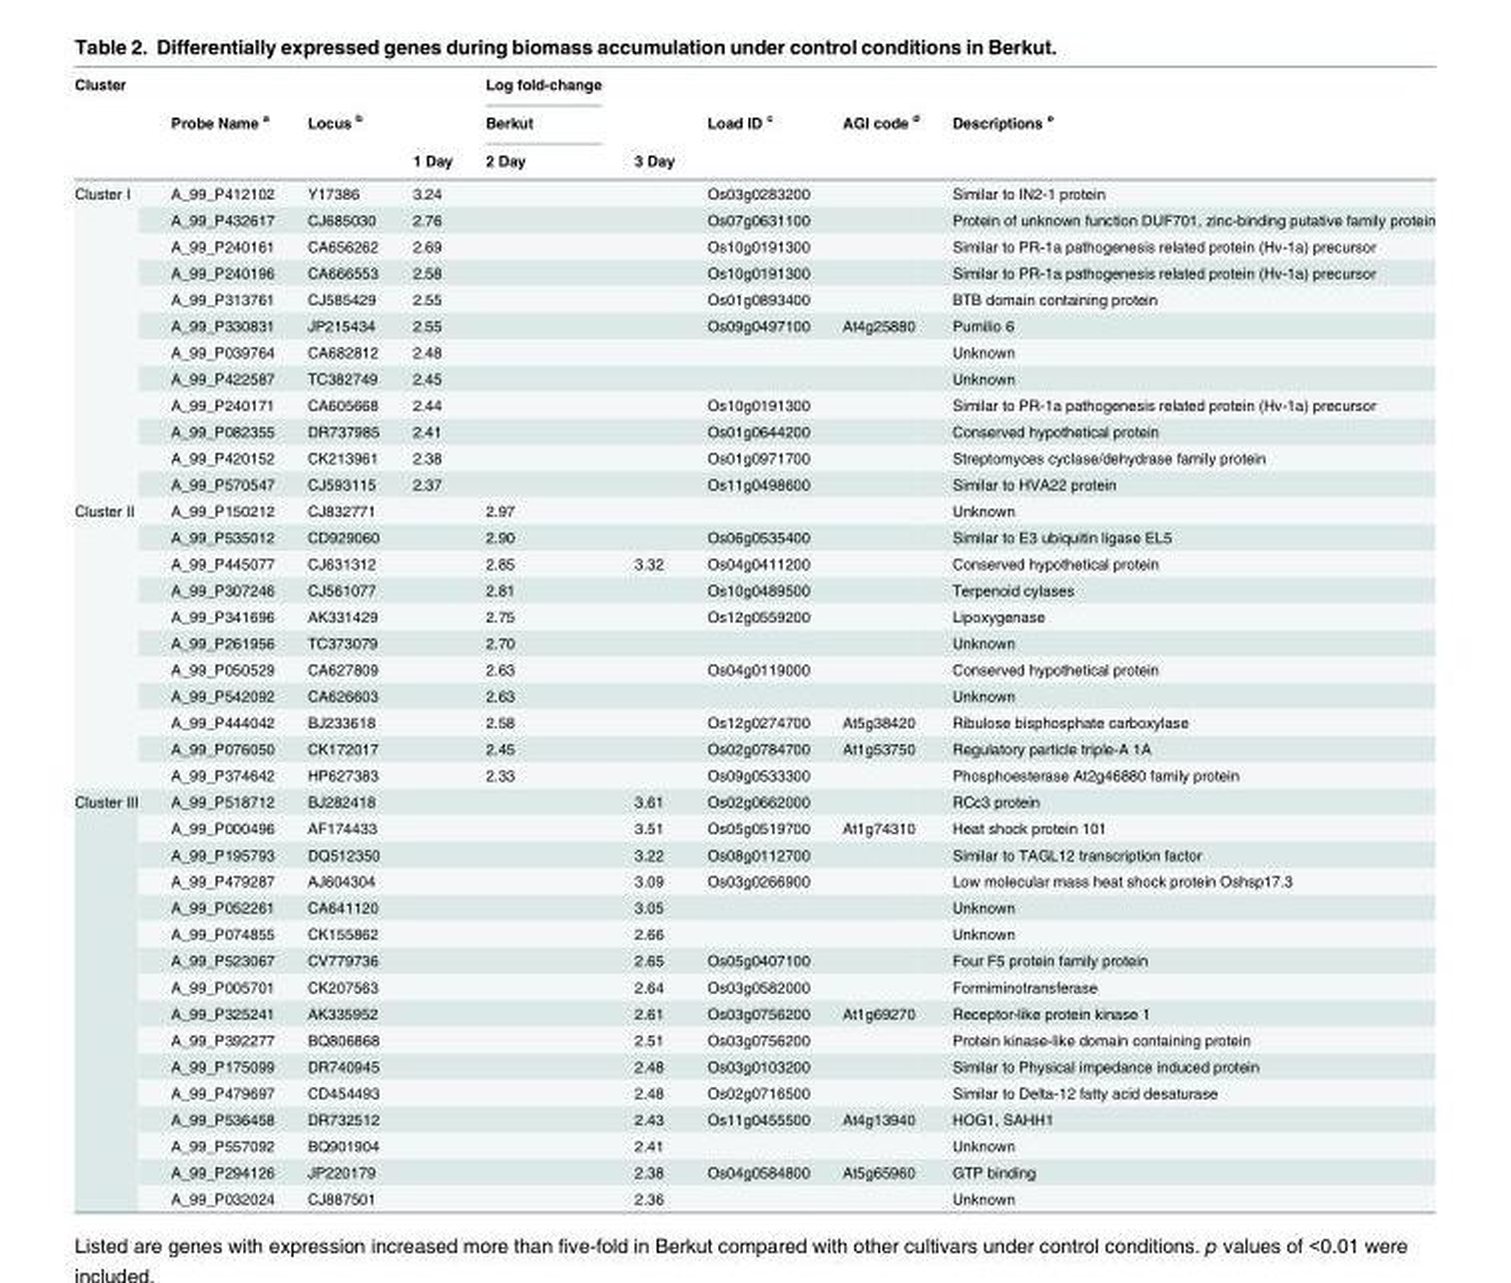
<table><thead><tr><td rowspan="3">Cluster</td><td rowspan="3">Probe Name <sup>a</sup></td><td rowspan="3">Locus <sup>b</sup></td><td rowspan="3">1 Day</td><td rowspan="3">Log fold-change Berkut 2 Day</td><td rowspan="3">3 Day</td><td rowspan="3">Load ID <sup>c</sup></td><td rowspan="3">AGI code <sup>d</sup></td><td rowspan="3">Descriptions <sup>e</sup></td></tr><tr></tr><tr></tr></thead><tbody><tr><td rowspan="12">Cluster I</td><td>A_99_P412102</td><td>Y17386</td><td>3.24</td><td></td><td></td><td>Os03g0283200</td><td></td><td>Similar to IN2-1 protein</td></tr><tr><td>A_99_P432617</td><td>CJ685030</td><td>2.76</td><td></td><td></td><td>Os07g0631100</td><td></td><td>Protein of unknown function DUF701, zinc-binding putative family protein</td></tr><tr><td>A_99_P240161</td><td>CA656262</td><td>2.69</td><td></td><td></td><td>Os10g0191300</td><td></td><td>Similar to PR-1a pathogenesis related protein (Hv-1a) precursor</td></tr><tr><td>A_99_P240196</td><td>CA666553</td><td>2.58</td><td></td><td></td><td>Os10g0191300</td><td></td><td>Similar to PR-1a pathogenesis related protein (Hv-1a) precursor</td></tr><tr><td>A_99_P313761</td><td>CJ585429</td><td>2.55</td><td></td><td></td><td>Os01g0893400</td><td></td><td>BTB domain containing protein</td></tr><tr><td>A_99_P330831</td><td>JP215434</td><td>2.55</td><td></td><td></td><td>Os09g0497100</td><td>At4g25880</td><td>Pumilio 6</td></tr><tr><td>A_99_P039764</td><td>CA682812</td><td>2.48</td><td></td><td></td><td></td><td></td><td>Unknown</td></tr><tr><td>A_99_P422587</td><td>TC382749</td><td>2.45</td><td></td><td></td><td></td><td></td><td>Unknown</td></tr><tr><td>A_99_P240171</td><td>CA605668</td><td>2.44</td><td></td><td></td><td>Os10g0191300</td><td></td><td>Similar to PR-1a pathogenesis related protein (Hv-1a) precursor</td></tr><tr><td>A_99_P082355</td><td>DR737985</td><td>2.41</td><td></td><td></td><td>Os01g0644200</td><td></td><td>Conserved hypothetical protein</td></tr><tr><td>A_99_P420152</td><td>CK213961</td><td>2.38</td><td></td><td></td><td>Os01g0971700</td><td></td><td>Streptomyces cyclase/dehydrase family protein</td></tr><tr><td>A_99_P570547</td><td>CJ593115</td><td>2.37</td><td></td><td></td><td>Os11g0498600</td><td></td><td>Similar to HVA22 protein</td></tr><tr><td rowspan="11">Cluster II</td><td>A_99_P150212</td><td>CJ832771</td><td></td><td>2.97</td><td></td><td></td><td></td><td>Unknown</td></tr><tr><td>A_99_P535012</td><td>CD929060</td><td></td><td>2.90</td><td></td><td>Os06g0535400</td><td></td><td>Similar to E3 ubiquitin ligase EL5</td></tr><tr><td>A_99_P445077</td><td>CJ631312</td><td></td><td>2.85</td><td>3.32</td><td>Os04g0411200</td><td></td><td>Conserved hypothetical protein</td></tr><tr><td>A_99_P307246</td><td>CJ561077</td><td></td><td>2.81</td><td></td><td>Os10g0489500</td><td></td><td>Terpenoid cylases</td></tr><tr><td>A_99_P341696</td><td>AK331429</td><td></td><td>2.75</td><td></td><td>Os12g0559200</td><td></td><td>Lipoxygenase</td></tr><tr><td>A_99_P261956</td><td>TC373079</td><td></td><td>2.70</td><td></td><td></td><td></td><td>Unknown</td></tr><tr><td>A_99_P050529</td><td>CA627809</td><td></td><td>2.63</td><td></td><td>Os04g0119000</td><td></td><td>Conserved hypothetical protein</td></tr><tr><td>A_99_P542092</td><td>CA626603</td><td></td><td>2.63</td><td></td><td></td><td></td><td>Unknown</td></tr><tr><td>A_99_P444042</td><td>BJ233618</td><td></td><td>2.58</td><td></td><td>Os12g0274700</td><td>At5g38420</td><td>Ribulose bisphosphate carboxylase</td></tr><tr><td>A_99_P076050</td><td>CK172017</td><td></td><td>2.45</td><td></td><td>Os02g0784700</td><td>At1g53750</td><td>Regulatory particle triple-A 1A</td></tr><tr><td>A_99_P374642</td><td>HP627383</td><td></td><td>2.33</td><td></td><td>Os09g0533300</td><td></td><td>Phosphoesterase At2g46880 family protein</td></tr><tr><td rowspan="16">Cluster III</td><td>A_99_P518712</td><td>BJ282418</td><td></td><td></td><td>3.61</td><td>Os02g0662000</td><td></td><td>RCc3 protein</td></tr><tr><td>A_99_P000496</td><td>AF174433</td><td></td><td></td><td>3.51</td><td>Os05g0519700</td><td>At1g74310</td><td>Heat shock protein 101</td></tr><tr><td>A_99_P195793</td><td>DQ512350</td><td></td><td></td><td>3.22</td><td>Os08g0112700</td><td></td><td>Similar to TAGL12 transcription factor</td></tr><tr><td>A_99_P479287</td><td>AJ604304</td><td></td><td></td><td>3.09</td><td>Os03g0266900</td><td></td><td>Low molecular mass heat shock protein Oshsp17.3</td></tr><tr><td>A_99_P052261</td><td>CA641120</td><td></td><td></td><td>3.05</td><td></td><td></td><td>Unknown</td></tr><tr><td>A_99_P074855</td><td>CK155862</td><td></td><td></td><td>2.66</td><td></td><td></td><td>Unknown</td></tr><tr><td>A_99_P523067</td><td>CV779736</td><td></td><td></td><td>2.65</td><td>Os05g0407100</td><td></td><td>Four F5 protein family protein</td></tr><tr><td>A_99_P005701</td><td>CK207563</td><td></td><td></td><td>2.64</td><td>Os03g0582000</td><td></td><td>Formiminotransferase</td></tr><tr><td>A_99_P325241</td><td>AK335952</td><td></td><td></td><td>2.61</td><td>Os03g0756200</td><td>At1g69270</td><td>Receptor-like protein kinase 1</td></tr><tr><td>A_99_P392277</td><td>BQ806868</td><td></td><td></td><td>2.51</td><td>Os03g0756200</td><td></td><td>Protein kinase-like domain containing protein</td></tr><tr><td>A_99_P175099</td><td>DR740945</td><td></td><td></td><td>2.48</td><td>Os03g0103200</td><td></td><td>Similar to Physical impedance induced protein</td></tr><tr><td>A_99_P479697</td><td>CD454493</td><td></td><td></td><td>2.48</td><td>Os02g0716500</td><td></td><td>Similar to Delta-12 fatty acid desaturase</td></tr><tr><td>A_99_P536458</td><td>DR732512</td><td></td><td></td><td>2.43</td><td>Os11g0455500</td><td>At4g13940</td><td>HOG1, SAHH1</td></tr><tr><td>A_99_P557092</td><td>BQ901904</td><td></td><td></td><td>2.41</td><td></td><td></td><td>Unknown</td></tr><tr><td>A_99_P294126</td><td>JP220179</td><td></td><td></td><td>2.38</td><td>Os04g0584800</td><td>At5g65960</td><td>GTP binding</td></tr><tr><td>A_99_P032024</td><td>CJ887501</td><td></td><td></td><td>2.36</td><td></td><td></td><td>Unknown</td></tr></tbody></table>